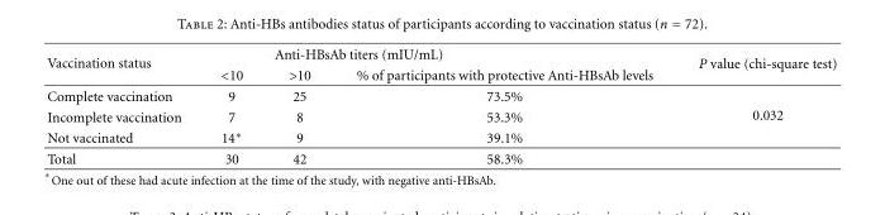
<table><thead><tr><td rowspan="2">Vaccination status</td><td colspan="3">Anti-HBsAb titers (mIU/mL)</td><td rowspan="2">P value (chi-square test)</td></tr><tr><td>&lt;10</td><td>&gt;10</td><td>% of participants with protective Anti-HBsAb levels</td></tr></thead><tbody><tr><td>Complete vaccination</td><td>9</td><td>25</td><td>73.5%</td><td rowspan="3">0.032</td></tr><tr><td>Incomplete vaccination</td><td>7</td><td>8</td><td>53.3%</td></tr><tr><td>Not vaccinated</td><td>14∗</td><td>9</td><td>39.1%</td></tr><tr><td>Total</td><td>30</td><td>42</td><td>58.3%</td><td></td></tr></tbody></table>